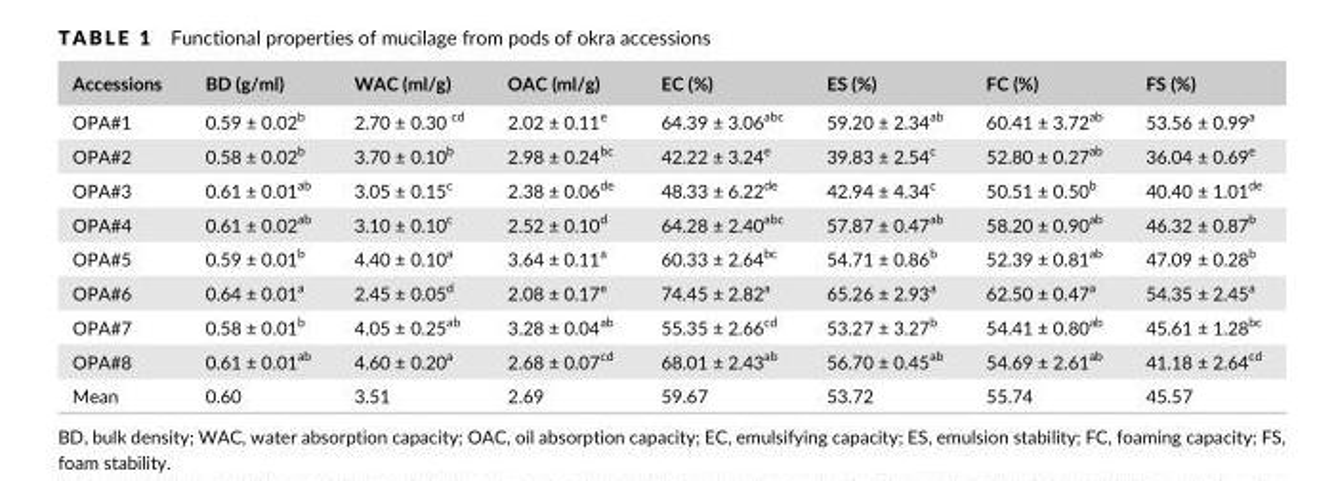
<table><thead><tr><td>Accessions</td><td>BD (g/ml)</td><td>WAC (ml/g)</td><td>OAC (ml/g)</td><td>EC (%)</td><td>ES (%)</td><td>FC (%)</td><td>FS (%)</td></tr></thead><tbody><tr><td>OPA#1</td><td>0.59 ± 0.02<sup>b</sup></td><td>2.70 ± 0.30 <sup>cd</sup></td><td>2.02 ± 0.11<sup>e</sup></td><td>64.39 ± 3.06<sup>abc</sup></td><td>59.20 ± 2.34<sup>ab</sup></td><td>60.41 ± 3.72<sup>ab</sup></td><td>53.56 ± 0.99<sup>a</sup></td></tr><tr><td>OPA#2</td><td>0.58 ± 0.02<sup>b</sup></td><td>3.70 ± 0.10<sup>b</sup></td><td>2.98 ± 0.24<sup>bc</sup></td><td>42.22 ± 3.24<sup>e</sup></td><td>39.83 ± 2.54<sup>c</sup></td><td>52.80 ± 0.27<sup>ab</sup></td><td>36.04 ± 0.69<sup>e</sup></td></tr><tr><td>OPA#3</td><td>0.61 ± 0.01<sup>ab</sup></td><td>3.05 ± 0.15<sup>c</sup></td><td>2.38 ± 0.06<sup>de</sup></td><td>48.33 ± 6.22<sup>de</sup></td><td>42.94 ± 4.34<sup>c</sup></td><td>50.51 ± 0.50<sup>b</sup></td><td>40.40 ± 1.01<sup>de</sup></td></tr><tr><td>OPA#4</td><td>0.61 ± 0.02<sup>ab</sup></td><td>3.10 ± 0.10<sup>c</sup></td><td>2.52 ± 0.10<sup>d</sup></td><td>64.28 ± 2.40<sup>abc</sup></td><td>57.87 ± 0.47<sup>ab</sup></td><td>58.20 ± 0.90<sup>ab</sup></td><td>46.32 ± 0.87<sup>b</sup></td></tr><tr><td>OPA#5</td><td>0.59 ± 0.01<sup>b</sup></td><td>4.40 ± 0.10<sup>a</sup></td><td>3.64 ± 0.11<sup>a</sup></td><td>60.33 ± 2.64<sup>bc</sup></td><td>54.71 ± 0.86<sup>b</sup></td><td>52.39 ± 0.81<sup>ab</sup></td><td>47.09 ± 0.28<sup>b</sup></td></tr><tr><td>OPA#6</td><td>0.64 ± 0.01<sup>a</sup></td><td>2.45 ± 0.05<sup>d</sup></td><td>2.08 ± 0.17<sup>e</sup></td><td>74.45 ± 2.82<sup>a</sup></td><td>65.26 ± 2.93<sup>a</sup></td><td>62.50 ± 0.47<sup>a</sup></td><td>54.35 ± 2.45<sup>a</sup></td></tr><tr><td>OPA#7</td><td>0.58 ± 0.01<sup>b</sup></td><td>4.05 ± 0.25<sup>ab</sup></td><td>3.28 ± 0.04<sup>ab</sup></td><td>55.35 ± 2.66<sup>cd</sup></td><td>53.27 ± 3.27<sup>b</sup></td><td>54.41 ± 0.80<sup>ab</sup></td><td>45.61 ± 1.28<sup>bc</sup></td></tr><tr><td>OPA#8</td><td>0.61 ± 0.01<sup>ab</sup></td><td>4.60 ± 0.20<sup>a</sup></td><td>2.68 ± 0.07<sup>cd</sup></td><td>68.01 ± 2.43<sup>ab</sup></td><td>56.70 ± 0.45<sup>ab</sup></td><td>54.69 ± 2.61<sup>ab</sup></td><td>41.18 ± 2.64<sup>cd</sup></td></tr><tr><td>Mean</td><td>0.60</td><td>3.51</td><td>2.69</td><td>59.67</td><td>53.72</td><td>55.74</td><td>45.57</td></tr></tbody></table>